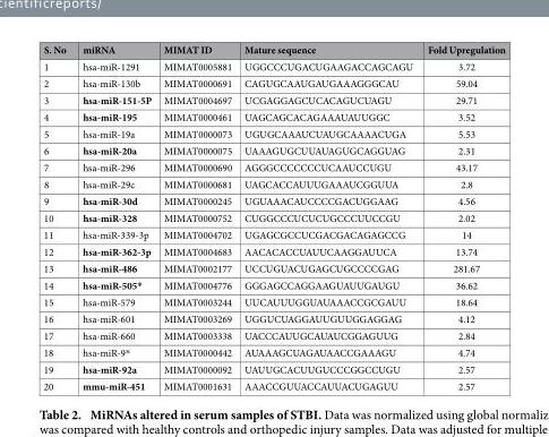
<table><thead><tr><td>S. No</td><td>miRNA</td><td>MIMAT ID</td><td>Mature sequence</td><td>Fold Upregulation</td></tr></thead><tbody><tr><td>1</td><td>hsa-miR-1291</td><td>MIMAT0005881</td><td>UGGCCCUGACUGAAGACCAGCAGU</td><td>3.72</td></tr><tr><td>2</td><td>hsa-miR-130b</td><td>MIMAT0000691</td><td>CAGUGCAAUGAUGAAAGGGCAU</td><td>59.04</td></tr><tr><td>3</td><td>hsa-miR-151-5P</td><td>MIMAT0004697</td><td>UCGAGGAGCUCACAGUCUAGU</td><td>29.71</td></tr><tr><td>4</td><td>hsa-miR-195</td><td>MIMAT0000461</td><td>UAGCAGCACAGAAAUAUUGGC</td><td>3.52</td></tr><tr><td>5</td><td>hsa-miR-19a</td><td>MIMAT0000073</td><td>UGUGCAAAUCUAUGCAAAACUGA</td><td>5.53</td></tr><tr><td>6</td><td>hsa-miR-20a</td><td>MIMAT0000075</td><td>UAAAGUGCUUAUAGUGCAGGUAG</td><td>2.31</td></tr><tr><td>7</td><td>hsa-miR-296</td><td>MIMAT0000690</td><td>AGGGCCCCCCCUCAAUCCUGU</td><td>43.17</td></tr><tr><td>8</td><td>hsa-miR-29c</td><td>MIMAT0000681</td><td>UAGCACCAUUUGAAAUCGGUUA</td><td>2.8</td></tr><tr><td>9</td><td>hsa-miR-30d</td><td>MIMAT0000245</td><td>UGUAAACAUCCCCGACUGGAAG</td><td>4.56</td></tr><tr><td>10</td><td>hsa-miR-328</td><td>MIMAT0000752</td><td>CUGGCCCUCUCUGCCCUUCCGU</td><td>2.02</td></tr><tr><td>11</td><td>hsa-miR-339-3p</td><td>MIMAT0004702</td><td>UGAGCGCCUCGACGACAGAGCCG</td><td>14</td></tr><tr><td>12</td><td>hsa-miR-362-3p</td><td>MIMAT0004683</td><td>AACACACCUAUUCAAGGAUUCA</td><td>13.74</td></tr><tr><td>13</td><td>hsa-miR-486</td><td>MIMAT0002177</td><td>UCCUGUACUGAGCUGCCCCGAG</td><td>281.67</td></tr><tr><td>14</td><td>hsa-miR-505*</td><td>MIMAT0004776</td><td>GGGAGCCAGGAAGUAUUGAUGU</td><td>36.62</td></tr><tr><td>15</td><td>hsa-miR-579</td><td>MIMAT0003244</td><td>UUCAUUUGGUAUAAACCGCGAUU</td><td>18.64</td></tr><tr><td>16</td><td>hsa-miR-601</td><td>MIMAT0003269</td><td>UGGUCUAGGAUUGUUGGAGGAG</td><td>4.12</td></tr><tr><td>17</td><td>hsa-miR-660</td><td>MIMAT0003338</td><td>UACCCAUUGCAUAUCGGAGUUG</td><td>2.84</td></tr><tr><td>18</td><td>hsa-miR-9*</td><td>MIMAT0000442</td><td>AUAAAGCUAGAUAACCGAAAGU</td><td>4.74</td></tr><tr><td>19</td><td>hsa-miR-92a</td><td>MIMAT0000092</td><td>UAUUGCACUUGUCCCGGCCUGU</td><td>2.57</td></tr><tr><td>20</td><td>mmu-miR-451</td><td>MIMAT0001631</td><td>AAACCGUUACCAUUACUGAGUU</td><td>2.57</td></tr></tbody></table>